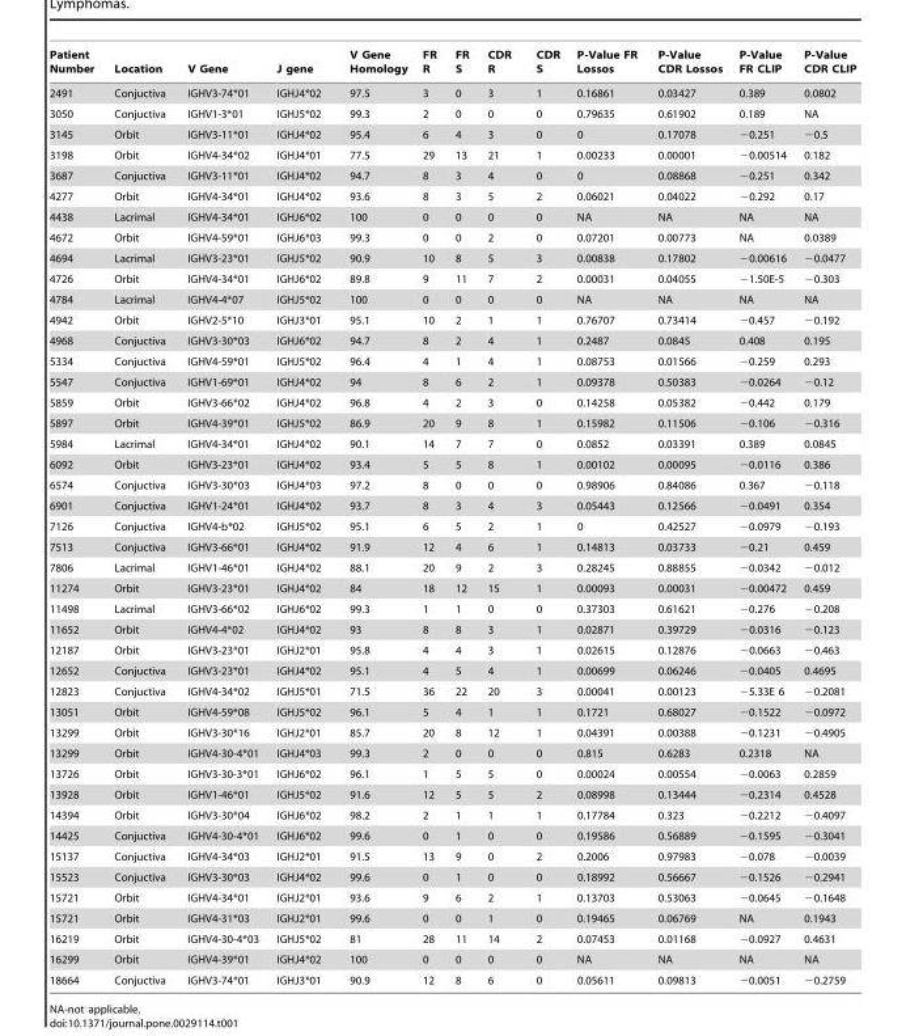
<table><thead><tr><td>Patient Number</td><td>Location</td><td>V Gene</td><td>J gene</td><td>V Gene Homology</td><td>FR R</td><td>FR S</td><td>CDR R</td><td>CDR S</td><td>P-Value FR Lossos</td><td>P-Value CDR Lossos</td><td>P-Value FR CLIP</td><td>P-Value CDR CLIP</td></tr></thead><tbody><tr><td>2491</td><td>Conjuctiva</td><td>IGHV3-74*01</td><td>IGHJ4*02</td><td>97.5</td><td>3</td><td>0</td><td>3</td><td>1</td><td>0.16861</td><td>0.03427</td><td>0.389</td><td>0.0802</td></tr><tr><td>3050</td><td>Conjuctiva</td><td>IGHV1-3*01</td><td>IGHJ5*02</td><td>99.3</td><td>2</td><td>0</td><td>0</td><td>0</td><td>0.79635</td><td>0.61902</td><td>0.189</td><td>NA</td></tr><tr><td>3145</td><td>Orbit</td><td>IGHV3-11*01</td><td>IGHJ4*02</td><td>95.4</td><td>6</td><td>4</td><td>3</td><td>0</td><td>0</td><td>0.17078</td><td>−0.251</td><td>−0.5</td></tr><tr><td>3198</td><td>Orbit</td><td>IGHV4-34*02</td><td>IGHJ4*01</td><td>77.5</td><td>29</td><td>13</td><td>21</td><td>1</td><td>0.00233</td><td>0.00001</td><td>−0.00514</td><td>0.182</td></tr><tr><td>3687</td><td>Conjuctiva</td><td>IGHV3-11*01</td><td>IGHJ4*02</td><td>94.7</td><td>8</td><td>3</td><td>4</td><td>0</td><td>0</td><td>0.08868</td><td>−0.251</td><td>0.342</td></tr><tr><td>4277</td><td>Orbit</td><td>IGHV4-34*01</td><td>IGHJ4*02</td><td>93.6</td><td>8</td><td>3</td><td>5</td><td>2</td><td>0.06021</td><td>0.04022</td><td>−0.292</td><td>0.17</td></tr><tr><td>4438</td><td>Lacrimal</td><td>IGHV4-34*01</td><td>IGHJ6*02</td><td>100</td><td>0</td><td>0</td><td>0</td><td>0</td><td>NA</td><td>NA</td><td>NA</td><td>NA</td></tr><tr><td>4672</td><td>Orbit</td><td>IGHV4-59*01</td><td>IGHJ6*03</td><td>99.3</td><td>0</td><td>0</td><td>2</td><td>0</td><td>0.07201</td><td>0.00773</td><td>NA</td><td>0.0389</td></tr><tr><td>4694</td><td>Lacrimal</td><td>IGHV3-23*01</td><td>IGHJ5*02</td><td>90.9</td><td>10</td><td>8</td><td>5</td><td>3</td><td>0.00838</td><td>0.17802</td><td>−0.00616</td><td>−0.0477</td></tr><tr><td>4726</td><td>Orbit</td><td>IGHV4-34*01</td><td>IGHJ6*02</td><td>89.8</td><td>9</td><td>11</td><td>7</td><td>2</td><td>0.00031</td><td>0.04055</td><td>−1.50E-5</td><td>−0.303</td></tr><tr><td>4784</td><td>Lacrimal</td><td>IGHV4-4*07</td><td>IGHJ5*02</td><td>100</td><td>0</td><td>0</td><td>0</td><td>0</td><td>NA</td><td>NA</td><td>NA</td><td>NA</td></tr><tr><td>4942</td><td>Orbit</td><td>IGHV2-5*10</td><td>IGHJ3*01</td><td>95.1</td><td>10</td><td>2</td><td>1</td><td>1</td><td>0.76707</td><td>0.73414</td><td>−0.457</td><td>−0.192</td></tr><tr><td>4968</td><td>Conjuctiva</td><td>IGHV3-30*03</td><td>IGHJ6*02</td><td>94.7</td><td>8</td><td>2</td><td>4</td><td>1</td><td>0.2487</td><td>0.0845</td><td>0.408</td><td>0.195</td></tr><tr><td>5334</td><td>Conjuctiva</td><td>IGHV4-59*01</td><td>IGHJ5*02</td><td>96.4</td><td>4</td><td>1</td><td>4</td><td>1</td><td>0.08753</td><td>0.01566</td><td>−0.259</td><td>0.293</td></tr><tr><td>5547</td><td>Conjuctiva</td><td>IGHV1-69*01</td><td>IGHJ4*02</td><td>94</td><td>8</td><td>6</td><td>2</td><td>1</td><td>0.09378</td><td>0.50383</td><td>−0.0264</td><td>−0.12</td></tr><tr><td>5859</td><td>Orbit</td><td>IGHV3-66*02</td><td>IGHJ4*02</td><td>96.8</td><td>4</td><td>2</td><td>3</td><td>0</td><td>0.14258</td><td>0.05382</td><td>−0.442</td><td>0.179</td></tr><tr><td>5897</td><td>Orbit</td><td>IGHV4-39*01</td><td>IGHJ5*02</td><td>86.9</td><td>20</td><td>9</td><td>8</td><td>1</td><td>0.15982</td><td>0.11506</td><td>−0.106</td><td>−0.316</td></tr><tr><td>5984</td><td>Lacrimal</td><td>IGHV4-34*01</td><td>IGHJ4*02</td><td>90.1</td><td>14</td><td>7</td><td>7</td><td>0</td><td>0.0852</td><td>0.03391</td><td>0.389</td><td>0.0845</td></tr><tr><td>6092</td><td>Orbit</td><td>IGHV3-23*01</td><td>IGHJ4*02</td><td>93.4</td><td>5</td><td>5</td><td>8</td><td>1</td><td>0.00102</td><td>0.00095</td><td>−0.0116</td><td>0.386</td></tr><tr><td>6574</td><td>Conjuctiva</td><td>IGHV3-30*03</td><td>IGHJ4*03</td><td>97.2</td><td>8</td><td>0</td><td>0</td><td>0</td><td>0.98906</td><td>0.84086</td><td>0.367</td><td>−0.118</td></tr><tr><td>6901</td><td>Conjuctiva</td><td>IGHV1-24*01</td><td>IGHJ4*02</td><td>93.7</td><td>8</td><td>3</td><td>4</td><td>3</td><td>0.05443</td><td>0.12566</td><td>−0.0491</td><td>0.354</td></tr><tr><td>7126</td><td>Conjuctiva</td><td>IGHV4-b*02</td><td>IGHJ5*02</td><td>95.1</td><td>6</td><td>5</td><td>2</td><td>1</td><td>0</td><td>0.42527</td><td>−0.0979</td><td>−0.193</td></tr><tr><td>7513</td><td>Conjuctiva</td><td>IGHV3-66*01</td><td>IGHJ4*02</td><td>91.9</td><td>12</td><td>4</td><td>6</td><td>1</td><td>0.14813</td><td>0.03733</td><td>−0.21</td><td>0.459</td></tr><tr><td>7806</td><td>Lacrimal</td><td>IGHV1-46*01</td><td>IGHJ4*02</td><td>88.1</td><td>20</td><td>9</td><td>2</td><td>3</td><td>0.28245</td><td>0.88855</td><td>−0.0342</td><td>−0.012</td></tr><tr><td>11274</td><td>Orbit</td><td>IGHV3-23*01</td><td>IGHJ4*02</td><td>84</td><td>18</td><td>12</td><td>15</td><td>1</td><td>0.00093</td><td>0.00031</td><td>−0.00472</td><td>0.459</td></tr><tr><td>11498</td><td>Lacrimal</td><td>IGHV3-66*02</td><td>IGHJ6*02</td><td>99.3</td><td>1</td><td>1</td><td>0</td><td>0</td><td>0.37303</td><td>0.61621</td><td>−0.276</td><td>−0.208</td></tr><tr><td>11652</td><td>Orbit</td><td>IGHV4-4*02</td><td>IGHJ4*02</td><td>93</td><td>8</td><td>8</td><td>3</td><td>1</td><td>0.02871</td><td>0.39729</td><td>−0.0316</td><td>−0.123</td></tr><tr><td>12187</td><td>Orbit</td><td>IGHV3-23*01</td><td>IGHJ2*01</td><td>95.8</td><td>4</td><td>4</td><td>3</td><td>1</td><td>0.02615</td><td>0.12876</td><td>−0.0663</td><td>−0.463</td></tr><tr><td>12652</td><td>Conjuctiva</td><td>IGHV3-23*01</td><td>IGHJ4*02</td><td>95.1</td><td>4</td><td>5</td><td>4</td><td>1</td><td>0.00699</td><td>0.06246</td><td>−0.0405</td><td>0.4695</td></tr><tr><td>12823</td><td>Conjuctiva</td><td>IGHV4-34*02</td><td>IGHJ5*01</td><td>71.5</td><td>36</td><td>22</td><td>20</td><td>3</td><td>0.00041</td><td>0.00123</td><td>−5.33E 6</td><td>−0.2081</td></tr><tr><td>13051</td><td>Orbit</td><td>IGHV4-59*08</td><td>IGHJ5*02</td><td>96.1</td><td>5</td><td>4</td><td>1</td><td>1</td><td>0.1721</td><td>0.68027</td><td>−0.1522</td><td>−0.0972</td></tr><tr><td>13299</td><td>Orbit</td><td>IGHV3-30*16</td><td>IGHJ2*01</td><td>85.7</td><td>20</td><td>8</td><td>12</td><td>1</td><td>0.04391</td><td>0.00388</td><td>−0.1231</td><td>−0.4905</td></tr><tr><td>13299</td><td>Orbit</td><td>IGHV4-30-4*01</td><td>IGHJ4*03</td><td>99.3</td><td>2</td><td>0</td><td>0</td><td>0</td><td>0.815</td><td>0.6283</td><td>0.2318</td><td>NA</td></tr><tr><td>13726</td><td>Orbit</td><td>IGHV3-30-3*01</td><td>IGHJ6*02</td><td>96.1</td><td>1</td><td>5</td><td>5</td><td>0</td><td>0.00024</td><td>0.00554</td><td>−0.0063</td><td>0.2859</td></tr><tr><td>13928</td><td>Orbit</td><td>IGHV1-46*01</td><td>IGHJ5*02</td><td>91.6</td><td>12</td><td>5</td><td>5</td><td>2</td><td>0.08998</td><td>0.13444</td><td>−0.2314</td><td>0.4528</td></tr><tr><td>14394</td><td>Orbit</td><td>IGHV3-30*04</td><td>IGHJ6*02</td><td>98.2</td><td>2</td><td>1</td><td>1</td><td>1</td><td>0.17784</td><td>0.323</td><td>−0.2212</td><td>−0.4097</td></tr><tr><td>14425</td><td>Conjuctiva</td><td>IGHV4-30-4*01</td><td>IGHJ6*02</td><td>99.6</td><td>0</td><td>1</td><td>0</td><td>0</td><td>0.19586</td><td>0.56889</td><td>−0.1595</td><td>−0.3041</td></tr><tr><td>15137</td><td>Conjuctiva</td><td>IGHV4-34*03</td><td>IGHJ2*01</td><td>91.5</td><td>13</td><td>9</td><td>0</td><td>2</td><td>0.2006</td><td>0.97983</td><td>−0.078</td><td>−0.0039</td></tr><tr><td>15523</td><td>Conjuctiva</td><td>IGHV3-30*03</td><td>IGHJ4*02</td><td>99.6</td><td>0</td><td>1</td><td>0</td><td>0</td><td>0.18992</td><td>0.56667</td><td>−0.1526</td><td>−0.2941</td></tr><tr><td>15721</td><td>Orbit</td><td>IGHV4-34*01</td><td>IGHJ2*01</td><td>93.6</td><td>9</td><td>6</td><td>2</td><td>1</td><td>0.13703</td><td>0.53063</td><td>−0.0645</td><td>−0.1648</td></tr><tr><td>15721</td><td>Orbit</td><td>IGHV4-31*03</td><td>IGHJ2*01</td><td>99.6</td><td>0</td><td>0</td><td>1</td><td>0</td><td>0.19465</td><td>0.06769</td><td>NA</td><td>0.1943</td></tr><tr><td>16219</td><td>Orbit</td><td>IGHV4-30-4*03</td><td>IGHJ5*02</td><td>81</td><td>28</td><td>11</td><td>14</td><td>2</td><td>0.07453</td><td>0.01168</td><td>−0.0927</td><td>0.4631</td></tr><tr><td>16299</td><td>Orbit</td><td>IGHV4-39*01</td><td>IGHJ4*02</td><td>100</td><td>0</td><td>0</td><td>0</td><td>0</td><td>NA</td><td>NA</td><td>NA</td><td>NA</td></tr><tr><td>18664</td><td>Conjuctiva</td><td>IGHV3-74*01</td><td>IGHJ3*01</td><td>90.9</td><td>12</td><td>8</td><td>6</td><td>0</td><td>0.05611</td><td>0.09813</td><td>−0.0051</td><td>−0.2759</td></tr></tbody></table>